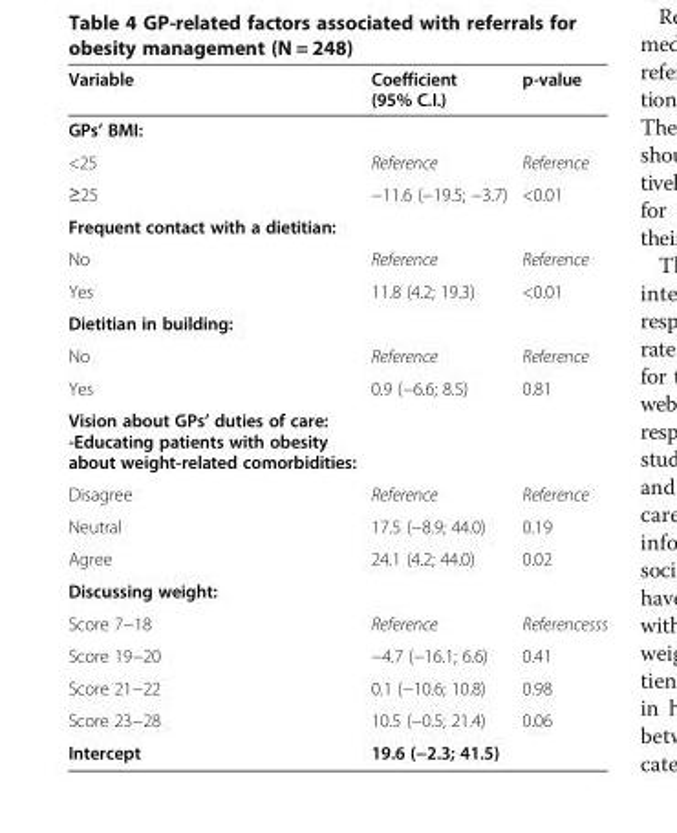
<table><thead><tr><td>Variable</td><td>Coefficient (95% C.I.)</td><td>p-value</td></tr></thead><tbody><tr><td colspan="3">GPs’ BMI:</td></tr><tr><td>&lt;25</td><td>Reference</td><td>Reference</td></tr><tr><td>≥25</td><td>−11.6 (−19.5; −3.7)</td><td>&lt;0.01</td></tr><tr><td colspan="3">Frequent contact with a dietitian:</td></tr><tr><td>No</td><td>Reference</td><td>Reference</td></tr><tr><td>Yes</td><td>11.8 (4.2; 19.3)</td><td>&lt;0.01</td></tr><tr><td colspan="3">Dietitian in building:</td></tr><tr><td>No</td><td>Reference</td><td>Reference</td></tr><tr><td>Yes</td><td>0.9 (−6.6; 8.5)</td><td>0.81</td></tr><tr><td colspan="3">Vision about GPs’ duties of care: -Educating patients with obesity about weight-related comorbidities:</td></tr><tr><td>Disagree</td><td>Reference</td><td>Reference</td></tr><tr><td>Neutral</td><td>17.5 (−8.9; 44.0)</td><td>0.19</td></tr><tr><td>Agree</td><td>24.1 (4.2; 44.0)</td><td>0.02</td></tr><tr><td colspan="3">Discussing weight:</td></tr><tr><td>Score 7−18</td><td>Reference</td><td>Referencesss</td></tr><tr><td>Score 19−20</td><td>−4.7 (−16.1; 6.6)</td><td>0.41</td></tr><tr><td>Score 21−22</td><td>0.1 (−10.6; 10.8)</td><td>0.98</td></tr><tr><td>Score 23−28</td><td>10.5 (−0.5; 21.4)</td><td>0.06</td></tr><tr><td>Intercept</td><td>19.6 (−2.3; 41.5)</td><td></td></tr></tbody></table>